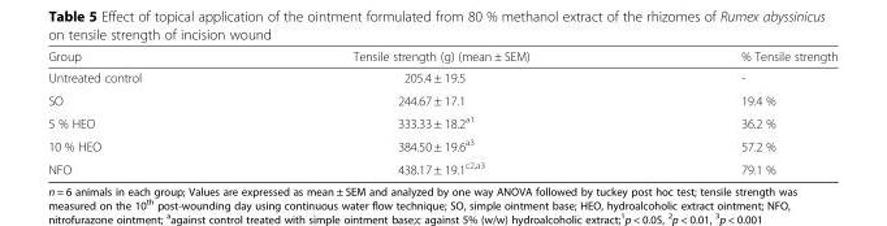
<table><thead><tr><td>Group</td><td>Tensile strength (g) (mean ± SEM)</td><td>% Tensile strength</td></tr></thead><tbody><tr><td>Untreated control</td><td>205.4 ± 19.5</td><td>-</td></tr><tr><td>SO</td><td>244.67 ± 17.1</td><td>19.4 %</td></tr><tr><td>5 % HEO</td><td>333.33 ± 18.2<sup>a1</sup></td><td>36.2 %</td></tr><tr><td>10 % HEO</td><td>384.50 ± 19.6<sup>a3</sup></td><td>57.2 %</td></tr><tr><td>NFO</td><td>438.17 ± 19.1<sup>c2,a3</sup></td><td>79.1 %</td></tr></tbody></table>